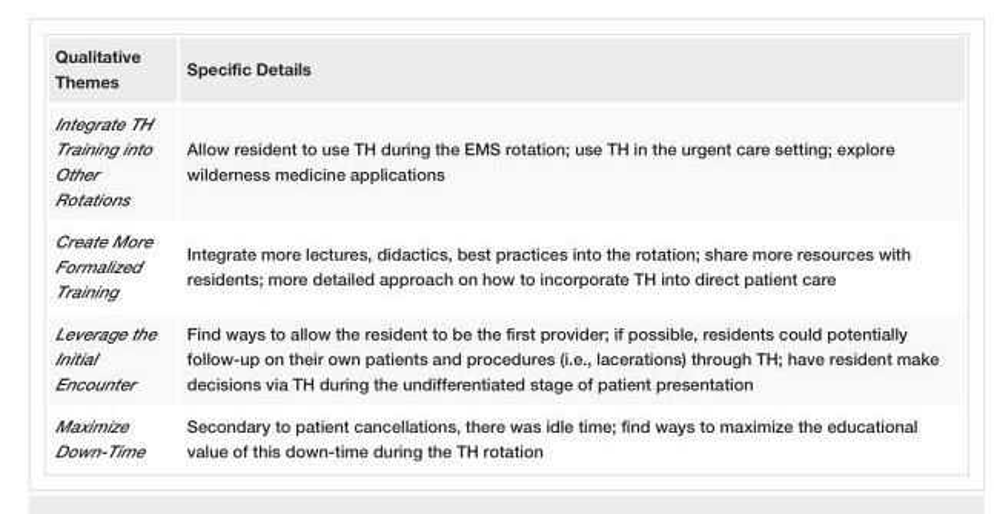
<table><tbody><tr><td>Qualitative Themes</td><td>Specific Details</td></tr><tr><td>Integrate TH Training into Other Rotations</td><td>Allow resident to use TH during the EMS rotation; use TH in the urgent care setting; explore wilderness medicine applications</td></tr><tr><td>Create More Formalized Training</td><td>Integrate more lectures, didactics, best practices into the rotation; share more resources with residents; more detailed approach on how to incorporate TH into direct patient care</td></tr><tr><td>Leverage the Initial Encounter</td><td>Find ways to allow the resident to be the first provider; if possible, residents could potentially follow-up on their own patients and procedures (i.e., lacerations) through TH; have resident make decisions via TH during the undifferentiated stage of patient presentation</td></tr><tr><td>Maximize Down-Time</td><td>Secondary to patient cancellations, there was idle time; find ways to maximize the educational value of this down-time during the TH rotation</td></tr></tbody></table>